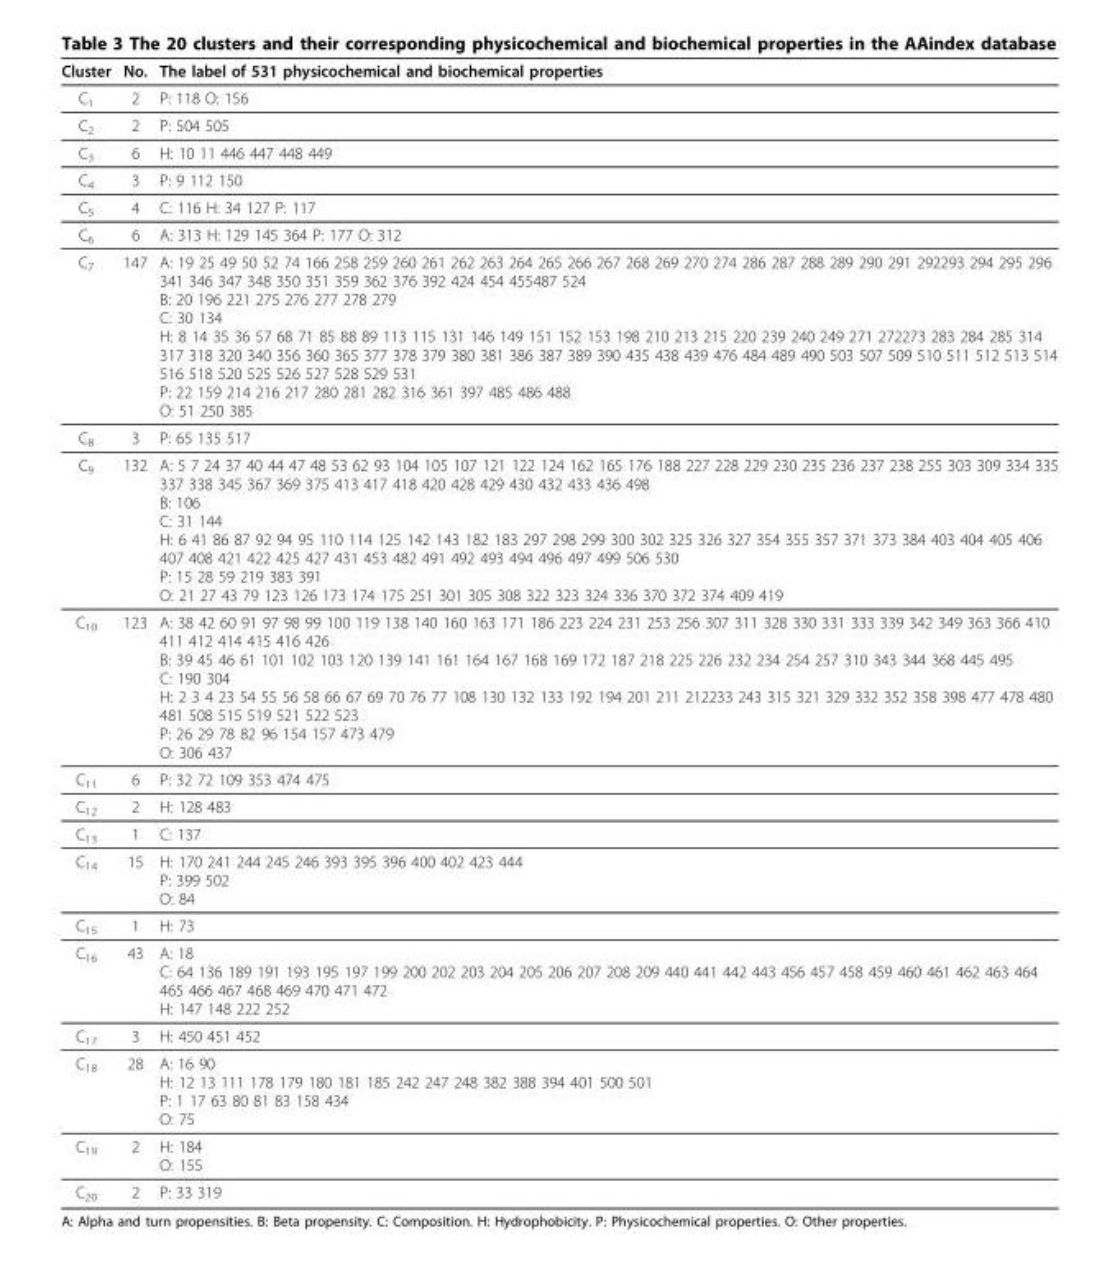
<table><thead><tr><td>Cluster</td><td>No.</td><td>The label of 531 physicochemical and biochemical properties</td></tr></thead><tbody><tr><td>C<sub>1</sub></td><td>2</td><td>P: 118 O: 156</td></tr><tr><td>C<sub>2</sub></td><td>2</td><td>P: 504 505</td></tr><tr><td>C<sub>3</sub></td><td>6</td><td>H: 10 11 446 447 448 449</td></tr><tr><td>C<sub>4</sub></td><td>3</td><td>P: 9 112 150</td></tr><tr><td>C<sub>5</sub></td><td>4</td><td>C: 116 H: 34 127 P: 117</td></tr><tr><td>C<sub>6</sub></td><td>6</td><td>A: 313 H: 129 145 364 P: 177 O: 312</td></tr><tr><td>C<sub>7</sub></td><td>147</td><td>A: 19 25 49 50 52 74 166 258 259 260 261 262 263 264 265 266 267 268 269 270 274 286 287 288 289 290 291 292293 294 295 296 341 346 347 348 350 351 359 362 376 392 424 454 455487 524 B: 20 196 221 275 276 277 278 279 C: 30 134 H: 8 14 35 36 57 68 71 85 88 89 113 115 131 146 149 151 152 153 198 210 213 215 220 239 240 249 271 272273 283 284 285 314 317 318 320 340 356 360 365 377 378 379 380 381 386 387 389 390 435 438 439 476 484 489 490 503 507 509 510 511 512 513 514 516 518 520 525 526 527 528 529 531 P: 22 159 214 216 217 280 281 282 316 361 397 485 486 488 O: 51 250 385</td></tr><tr><td>C<sub>8</sub></td><td>3</td><td>P: 65 135 517</td></tr><tr><td>C<sub>9</sub></td><td>132</td><td>A: 5 7 24 37 40 44 47 48 53 62 93 104 105 107 121 122 124 162 165 176 188 227 228 229 230 235 236 237 238 255 303 309 334 335 337 338 345 367 369 375 413 417 418 420 428 429 430 432 433 436 498 B: 106 C: 31 144 H: 6 41 86 87 92 94 95 110 114 125 142 143 182 183 297 298 299 300 302 325 326 327 354 355 357 371 373 384 403 404 405 406 407 408 421 422 425 427 431 453 482 491 492 493 494 496 497 499 506 530 P: 15 28 59 219 383 391 O: 21 27 43 79 123 126 173 174 175 251 301 305 308 322 323 324 336 370 372 374 409 419</td></tr><tr><td>C<sub>10</sub></td><td>123</td><td>A: 38 42 60 91 97 98 99 100 119 138 140 160 163 171 186 223 224 231 253 256 307 311 328 330 331 333 339 342 349 363 366 410 411 412 414 415 416 426 B: 39 45 46 61 101 102 103 120 139 141 161 164 167 168 169 172 187 218 225 226 232 234 254 257 310 343 344 368 445 495 C: 190 304 H: 2 3 4 23 54 55 56 58 66 67 69 70 76 77 108 130 132 133 192 194 201 211 212233 243 315 321 329 332 352 358 398 477 478 480 481 508 515 519 521 522 523 P: 26 29 78 82 96 154 157 473 479 O: 306 437</td></tr><tr><td>C<sub>11</sub></td><td>6</td><td>P: 32 72 109 353 474 475</td></tr><tr><td>C<sub>12</sub></td><td>2</td><td>H: 128 483</td></tr><tr><td>C<sub>13</sub></td><td>1</td><td>C: 137</td></tr><tr><td>C<sub>14</sub></td><td>15</td><td>H: 170 241 244 245 246 393 395 396 400 402 423 444 P: 399 502 O: 84</td></tr><tr><td>C<sub>15</sub></td><td>1</td><td>H: 73</td></tr><tr><td>C<sub>16</sub></td><td>43</td><td>A: 18 C: 64 136 189 191 193 195 197 199 200 202 203 204 205 206 207 208 209 440 441 442 443 456 457 458 459 460 461 462 463 464 465 466 467 468 469 470 471 472 H: 147 148 222 252</td></tr><tr><td>C<sub>17</sub></td><td>3</td><td>H: 450 451 452</td></tr><tr><td>C<sub>18</sub></td><td>28</td><td>A: 16 90 H: 12 13 111 178 179 180 181 185 242 247 248 382 388 394 401 500 501 P: 1 17 63 80 81 83 158 434 O: 75</td></tr><tr><td>C<sub>19</sub></td><td>2</td><td>H: 184 O: 155</td></tr><tr><td>C<sub>20</sub></td><td>2</td><td>P: 33 319</td></tr></tbody></table>